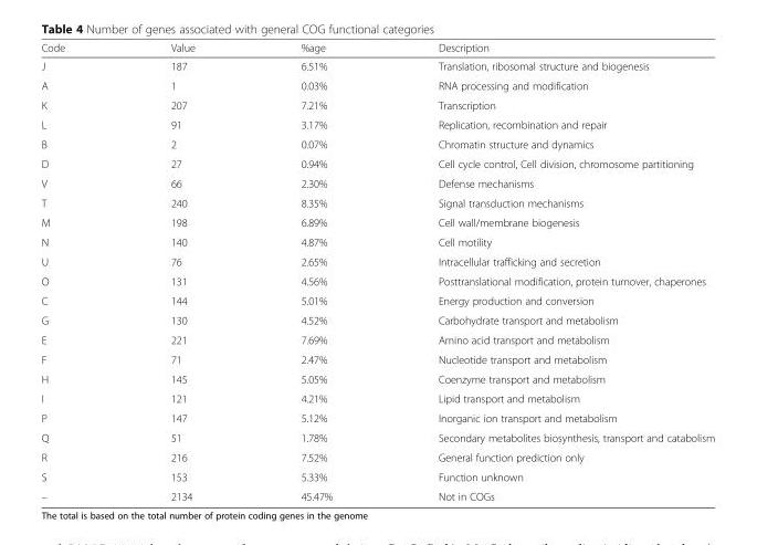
<table><thead><tr><td>Code</td><td>Value</td><td>%age</td><td>Description</td></tr></thead><tbody><tr><td>J</td><td>187</td><td>6.51%</td><td>Translation, ribosomal structure and biogenesis</td></tr><tr><td>A</td><td>1</td><td>0.03%</td><td>RNA processing and modification</td></tr><tr><td>K</td><td>207</td><td>7.21%</td><td>Transcription</td></tr><tr><td>L</td><td>91</td><td>3.17%</td><td>Replication, recombination and repair</td></tr><tr><td>B</td><td>2</td><td>0.07%</td><td>Chromatin structure and dynamics</td></tr><tr><td>D</td><td>27</td><td>0.94%</td><td>Cell cycle control, Cell division, chromosome partitioning</td></tr><tr><td>V</td><td>66</td><td>2.30%</td><td>Defense mechanisms</td></tr><tr><td>T</td><td>240</td><td>8.35%</td><td>Signal transduction mechanisms</td></tr><tr><td>M</td><td>198</td><td>6.89%</td><td>Cell wall/membrane biogenesis</td></tr><tr><td>N</td><td>140</td><td>4.87%</td><td>Cell motility</td></tr><tr><td>U</td><td>76</td><td>2.65%</td><td>Intracellular trafficking and secretion</td></tr><tr><td>O</td><td>131</td><td>4.56%</td><td>Posttranslational modification, protein turnover, chaperones</td></tr><tr><td>C</td><td>144</td><td>5.01%</td><td>Energy production and conversion</td></tr><tr><td>G</td><td>130</td><td>4.52%</td><td>Carbohydrate transport and metabolism</td></tr><tr><td>E</td><td>221</td><td>7.69%</td><td>Amino acid transport and metabolism</td></tr><tr><td>F</td><td>71</td><td>2.47%</td><td>Nucleotide transport and metabolism</td></tr><tr><td>H</td><td>145</td><td>5.05%</td><td>Coenzyme transport and metabolism</td></tr><tr><td>I</td><td>121</td><td>4.21%</td><td>Lipid transport and metabolism</td></tr><tr><td>P</td><td>147</td><td>5.12%</td><td>Inorganic ion transport and metabolism</td></tr><tr><td>Q</td><td>51</td><td>1.78%</td><td>Secondary metabolites biosynthesis, transport and catabolism</td></tr><tr><td>R</td><td>216</td><td>7.52%</td><td>General function prediction only</td></tr><tr><td>S</td><td>153</td><td>5.33%</td><td>Function unknown</td></tr><tr><td>–</td><td>2134</td><td>45.47%</td><td>Not in COGs</td></tr></tbody></table>